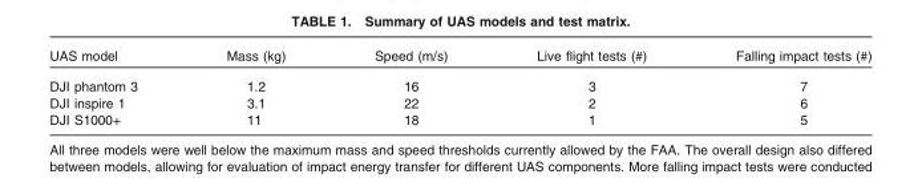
<table><thead><tr><td>UAS model</td><td>Mass (kg)</td><td>Speed (m/s)</td><td>Live flight tests (#)</td><td>Falling impact tests (#)</td></tr></thead><tbody><tr><td>DJI phantom 3</td><td>1.2</td><td>16</td><td>3</td><td>7</td></tr><tr><td>DJI inspire 1</td><td>3.1</td><td>22</td><td>2</td><td>6</td></tr><tr><td>DJI S1000+</td><td>11</td><td>18</td><td>1</td><td>5</td></tr></tbody></table>